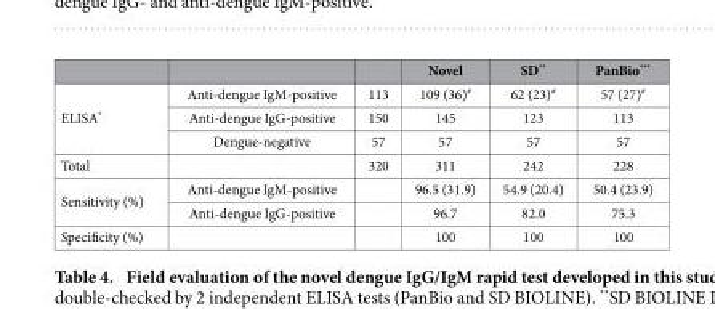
<table><thead><tr><td></td><td></td><td></td><td>Novel</td><td>SD**</td><td>PanBio***</td></tr></thead><tbody><tr><td rowspan="3">ELISA*</td><td>Anti-dengue IgM-positive</td><td>113</td><td>109 (36)#</td><td>62 (23)#</td><td>57 (27)#</td></tr><tr><td>Anti-dengue IgG-positive</td><td>150</td><td>145</td><td>123</td><td>113</td></tr><tr><td>Dengue-negative</td><td>57</td><td>57</td><td>57</td><td>57</td></tr><tr><td>Total</td><td></td><td>320</td><td>311</td><td>242</td><td>228</td></tr><tr><td rowspan="2">Sensitivity (%)</td><td>Anti-dengue IgM-positive</td><td></td><td>96.5 (31.9)</td><td>54.9 (20.4)</td><td>50.4 (23.9)</td></tr><tr><td>Anti-dengue IgG-positive</td><td></td><td>96.7</td><td>82.0</td><td>75.3</td></tr><tr><td>Specificity (%)</td><td></td><td></td><td>100</td><td>100</td><td>100</td></tr></tbody></table>